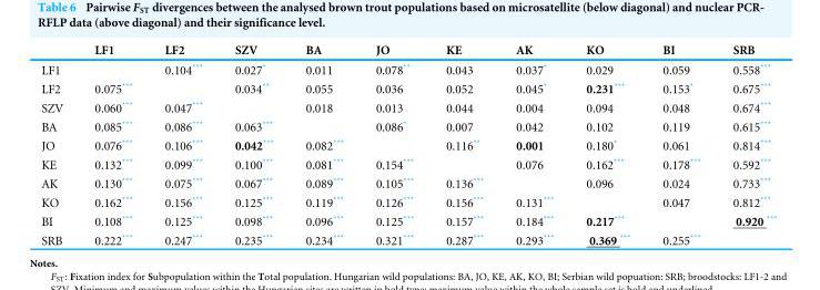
<table><thead><tr><td></td><td>LF1</td><td>LF2</td><td>SZV</td><td>BA</td><td>JO</td><td>KE</td><td>AK</td><td>KO</td><td>BI</td><td>SRB</td></tr></thead><tbody><tr><td>LF1</td><td></td><td>0.104***</td><td>0.027*</td><td>0.011</td><td>0.078**</td><td>0.043</td><td>0.037*</td><td>0.029</td><td>0.059</td><td>0.558***</td></tr><tr><td>LF2</td><td>0.075***</td><td></td><td>0.034**</td><td>0.055</td><td>0.036</td><td>0.052</td><td>0.045*</td><td>0.231***</td><td>0.153*</td><td>0.675***</td></tr><tr><td>SZV</td><td>0.060***</td><td>0.047***</td><td></td><td>0.018</td><td>0.013</td><td>0.044</td><td>0.004</td><td>0.094</td><td>0.048</td><td>0.674***</td></tr><tr><td>BA</td><td>0.085***</td><td>0.086***</td><td>0.063***</td><td></td><td>0.086*</td><td>0.007</td><td>0.042</td><td>0.102</td><td>0.119</td><td>0.615***</td></tr><tr><td>JO</td><td>0.076***</td><td>0.106***</td><td>0.042***</td><td>0.082***</td><td></td><td>0.116**</td><td>0.001</td><td>0.180*</td><td>0.061</td><td>0.814***</td></tr><tr><td>KE</td><td>0.132***</td><td>0.099***</td><td>0.100***</td><td>0.081***</td><td>0.154***</td><td></td><td>0.076</td><td>0.162***</td><td>0.178***</td><td>0.592***</td></tr><tr><td>AK</td><td>0.130***</td><td>0.075***</td><td>0.067***</td><td>0.089***</td><td>0.105***</td><td>0.136***</td><td></td><td>0.096</td><td>0.024</td><td>0.733***</td></tr><tr><td>KO</td><td>0.162***</td><td>0.156***</td><td>0.125***</td><td>0.119***</td><td>0.126***</td><td>0.156***</td><td>0.131***</td><td></td><td>0.047</td><td>0.812***</td></tr><tr><td>BI</td><td>0.108***</td><td>0.125***</td><td>0.098***</td><td>0.096***</td><td>0.125***</td><td>0.157***</td><td>0.184***</td><td>0.217***</td><td></td><td>0.920 ***</td></tr><tr><td>SRB</td><td>0.222***</td><td>0.247***</td><td>0.235***</td><td>0.234***</td><td>0.321***</td><td>0.287***</td><td>0.293***</td><td>0.369 ***</td><td>0.255***</td><td></td></tr></tbody></table>